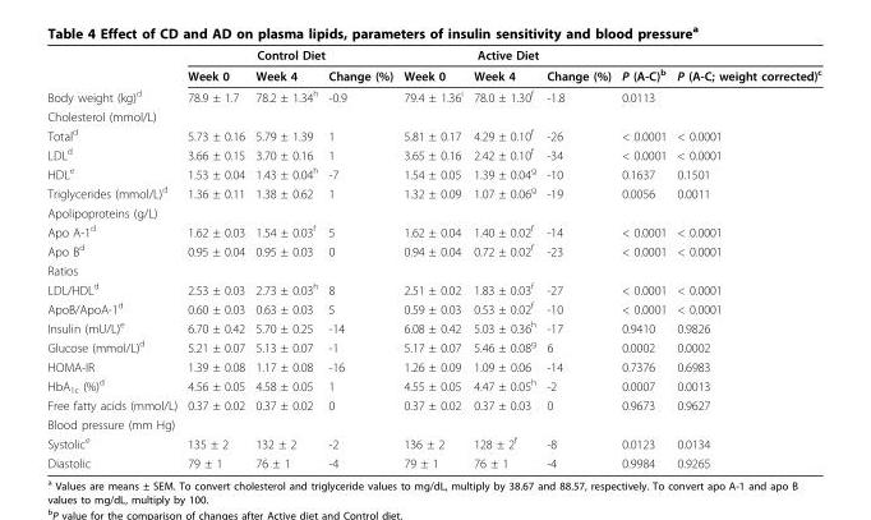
<table><thead><tr><td rowspan="2"></td><td colspan="3">Control Diet</td><td colspan="3">Active Diet</td><td rowspan="2">P (A-C)<sup>b</sup></td><td rowspan="2">P (A-C; weight corrected)<sup>c</sup></td></tr><tr><td>Week 0</td><td>Week 4</td><td>Change (%)</td><td>Week 0</td><td>Week 4</td><td>Change (%)</td></tr></thead><tbody><tr><td>Body weight (kg)<sup>d</sup></td><td>78.9 ± 1.7</td><td>78.2 ± 1.34<sup>h</sup></td><td>-0.9</td><td>79.4 ± 1.36<sup>i</sup></td><td>78.0 ± 1.30<sup>f</sup></td><td>-1.8</td><td>0.0113</td><td></td></tr><tr><td colspan="9">Cholesterol (mmol/L)</td></tr><tr><td>Total<sup>d</sup></td><td>5.73 ± 0.16</td><td>5.79 ± 1.39</td><td>1</td><td>5.81 ± 0.17</td><td>4.29 ± 0.10<sup>f</sup></td><td>-26</td><td>&lt; 0.0001</td><td>&lt; 0.0001</td></tr><tr><td>LDL<sup>d</sup></td><td>3.66 ± 0.15</td><td>3.70 ± 0.16</td><td>1</td><td>3.65 ± 0.16</td><td>2.42 ± 0.10<sup>f</sup></td><td>-34</td><td>&lt; 0.0001</td><td>&lt; 0.0001</td></tr><tr><td>HDL<sup>e</sup></td><td>1.53 ± 0.04</td><td>1.43 ± 0.04<sup>h</sup></td><td>-7</td><td>1.54 ± 0.05</td><td>1.39 ± 0.04<sup>g</sup></td><td>-10</td><td>0.1637</td><td>0.1501</td></tr><tr><td>Triglycerides (mmol/L)<sup>d</sup></td><td>1.36 ± 0.11</td><td>1.38 ± 0.62</td><td>1</td><td>1.32 ± 0.09</td><td>1.07 ± 0.06<sup>g</sup></td><td>-19</td><td>0.0056</td><td>0.0011</td></tr><tr><td colspan="9">Apolipoproteins (g/L)</td></tr><tr><td>Apo A-1<sup>d</sup></td><td>1.62 ± 0.03</td><td>1.54 ± 0.03<sup>f</sup></td><td>5</td><td>1.62 ± 0.04</td><td>1.40 ± 0.02<sup>f</sup></td><td>-14</td><td>&lt; 0.0001</td><td>&lt; 0.0001</td></tr><tr><td>Apo B<sup>d</sup></td><td>0.95 ± 0.04</td><td>0.95 ± 0.03</td><td>0</td><td>0.94 ± 0.04</td><td>0.72 ± 0.02<sup>f</sup></td><td>-23</td><td>&lt; 0.0001</td><td>&lt; 0.0001</td></tr><tr><td colspan="9">Ratios</td></tr><tr><td>LDL/HDL<sup>d</sup></td><td>2.53 ± 0.03</td><td>2.73 ± 0.03<sup>h</sup></td><td>8</td><td>2.51 ± 0.02</td><td>1.83 ± 0.03<sup>f</sup></td><td>-27</td><td>&lt; 0.0001</td><td>&lt; 0.0001</td></tr><tr><td>ApoB/ApoA-1<sup>d</sup></td><td>0.60 ± 0.03</td><td>0.63 ± 0.03</td><td>5</td><td>0.59 ± 0.03</td><td>0.53 ± 0.02<sup>f</sup></td><td>-10</td><td>&lt; 0.0001</td><td>&lt; 0.0001</td></tr><tr><td>Insulin (mU/L)<sup>e</sup></td><td>6.70 ± 0.42</td><td>5.70 ± 0.25</td><td>-14</td><td>6.08 ± 0.42</td><td>5.03 ± 0.36<sup>h</sup></td><td>-17</td><td>0.9410</td><td>0.9826</td></tr><tr><td>Glucose (mmol/L)<sup>d</sup></td><td>5.21 ± 0.07</td><td>5.13 ± 0.07</td><td>-1</td><td>5.17 ± 0.07</td><td>5.46 ± 0.08<sup>g</sup></td><td>6</td><td>0.0002</td><td>0.0002</td></tr><tr><td>HOMA-IR</td><td>1.39 ± 0.08</td><td>1.17 ± 0.08</td><td>-16</td><td>1.26 ± 0.09</td><td>1.09 ± 0.06</td><td>-14</td><td>0.7376</td><td>0.6983</td></tr><tr><td>HbA<sub>1c</sub> (%)<sup>d</sup></td><td>4.56 ± 0.05</td><td>4.58 ± 0.05</td><td>1</td><td>4.55 ± 0.05</td><td>4.47 ± 0.05<sup>h</sup></td><td>-2</td><td>0.0007</td><td>0.0013</td></tr><tr><td>Free fatty acids (mmol/L)</td><td>0.37 ± 0.02</td><td>0.37 ± 0.02</td><td>0</td><td>0.37 ± 0.02</td><td>0.37 ± 0.03</td><td>0</td><td>0.9673</td><td>0.9627</td></tr><tr><td colspan="9">Blood pressure (mm Hg)</td></tr><tr><td>Systolic<sup>e</sup></td><td>135 ± 2</td><td>132 ± 2</td><td>-2</td><td>136 ± 2</td><td>128 ± 2<sup>f</sup></td><td>-8</td><td>0.0123</td><td>0.0134</td></tr><tr><td>Diastolic</td><td>79 ± 1</td><td>76 ± 1</td><td>-4</td><td>79 ± 1</td><td>76 ± 1</td><td>-4</td><td>0.9984</td><td>0.9265</td></tr></tbody></table>